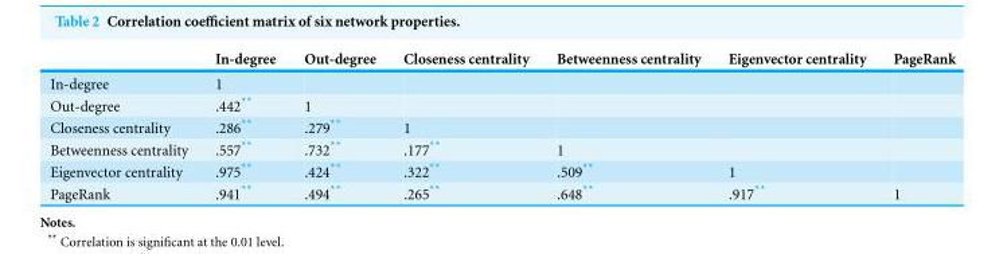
<table><thead><tr><td></td><td>In-degree</td><td>Out-degree</td><td>Closeness centrality</td><td>Betweenness centrality</td><td>Eigenvector centrality</td><td>PageRank</td></tr></thead><tbody><tr><td>In-degree</td><td>1</td><td></td><td></td><td></td><td></td><td></td></tr><tr><td>Out-degree</td><td>.442**</td><td>1</td><td></td><td></td><td></td><td></td></tr><tr><td>Closeness centrality</td><td>.286**</td><td>.279**</td><td>1</td><td></td><td></td><td></td></tr><tr><td>Betweenness centrality</td><td>.557**</td><td>.732**</td><td>.177**</td><td>1</td><td></td><td></td></tr><tr><td>Eigenvector centrality</td><td>.975**</td><td>.424**</td><td>.322**</td><td>.509**</td><td>1</td><td></td></tr><tr><td>PageRank</td><td>.941**</td><td>.494**</td><td>.265**</td><td>.648**</td><td>.917**</td><td>1</td></tr></tbody></table>